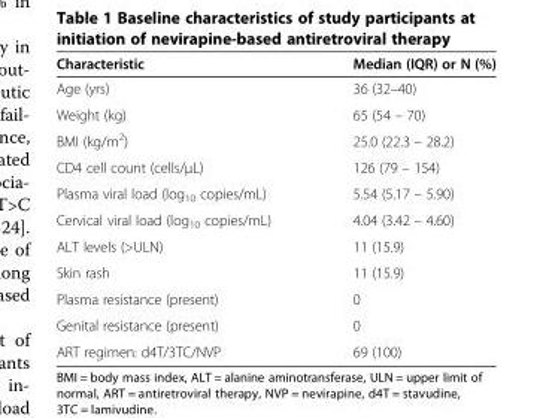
<table><thead><tr><td>Characteristic</td><td>Median (IQR) or N (%)</td></tr></thead><tbody><tr><td>Age (yrs)</td><td>36 (32–40)</td></tr><tr><td>Weight (kg)</td><td>65 (54 – 70)</td></tr><tr><td>BMI (kg/m<sup>2</sup>)</td><td>25.0 (22.3 – 28.2)</td></tr><tr><td>CD4 cell count (cells/μL)</td><td>126 (79 – 154)</td></tr><tr><td>Plasma viral load (log<sub>10</sub> copies/mL)</td><td>5.54 (5.17 – 5.90)</td></tr><tr><td>Cervical viral load (log<sub>10</sub> copies/mL)</td><td>4.04 (3.42 – 4.60)</td></tr><tr><td>ALT levels (&gt;ULN)</td><td>11 (15.9)</td></tr><tr><td>Skin rash</td><td>11 (15.9)</td></tr><tr><td>Plasma resistance (present)</td><td>0</td></tr><tr><td>Genital resistance (present)</td><td>0</td></tr><tr><td>ART regimen: d4T/3TC/NVP</td><td>69 (100)</td></tr></tbody></table>